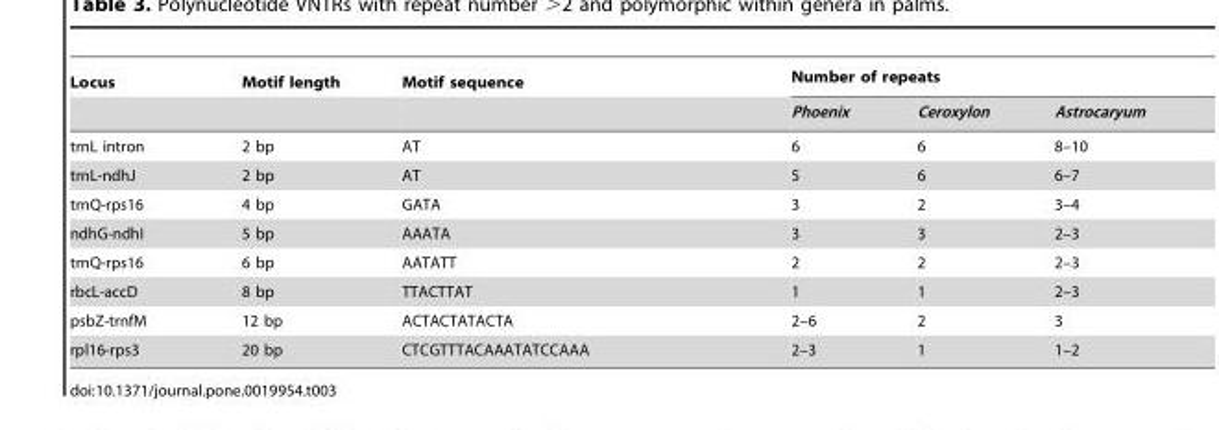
<table><thead><tr><td rowspan="2">Locus</td><td rowspan="2">Motif length</td><td rowspan="2">Motif sequence</td><td colspan="3">Number of repeats</td></tr><tr><td>Phoenix</td><td>Ceroxylon</td><td>Astrocaryum</td></tr></thead><tbody><tr><td>trnL intron</td><td>2 bp</td><td>AT</td><td>6</td><td>6</td><td>8–10</td></tr><tr><td>trnL-ndhJ</td><td>2 bp</td><td>AT</td><td>5</td><td>6</td><td>6–7</td></tr><tr><td>trnQ-rps16</td><td>4 bp</td><td>GATA</td><td>3</td><td>2</td><td>3–4</td></tr><tr><td>ndhG-ndhI</td><td>5 bp</td><td>AAATA</td><td>3</td><td>3</td><td>2–3</td></tr><tr><td>trnQ-rps16</td><td>6 bp</td><td>AATATT</td><td>2</td><td>2</td><td>2–3</td></tr><tr><td>rbcL-accD</td><td>8 bp</td><td>TTACTTAT</td><td>1</td><td>1</td><td>2–3</td></tr><tr><td>psbZ-trnfM</td><td>12 bp</td><td>ACTACTATACTA</td><td>2–6</td><td>2</td><td>3</td></tr><tr><td>rpl16-rps3</td><td>20 bp</td><td>CTCGTTTACAAATATCCAAA</td><td>2–3</td><td>1</td><td>1–2</td></tr></tbody></table>